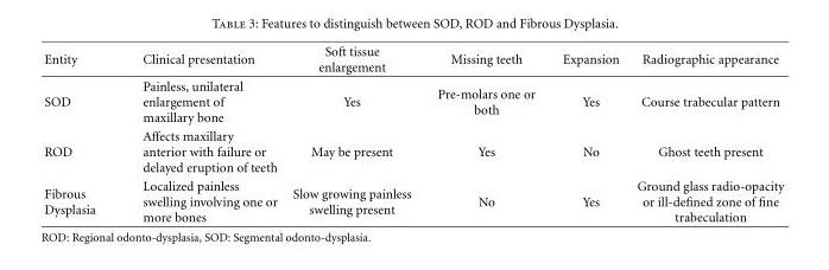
<table><thead><tr><td>Entity</td><td>Clinical presentation</td><td>Soft tissue enlargement</td><td>Missing teeth</td><td>Expansion</td><td>Radiographic appearance</td></tr></thead><tbody><tr><td>SOD</td><td>Painless, unilateral enlargement of maxillary bone</td><td>Yes</td><td>Pre-molars one or both</td><td>Yes</td><td>Course trabecular pattern</td></tr><tr><td>ROD</td><td>Affects maxillary anterior with failure or delayed eruption of teeth</td><td>May be present</td><td>Yes</td><td>No</td><td>Ghost teeth present</td></tr><tr><td>Fibrous Dysplasia</td><td>Localized painless swelling involving one or more bones</td><td>Slow growing painless swelling present</td><td>No</td><td>Yes</td><td>Ground glass radio-opacity or ill-defined zone of fine trabeculation</td></tr></tbody></table>